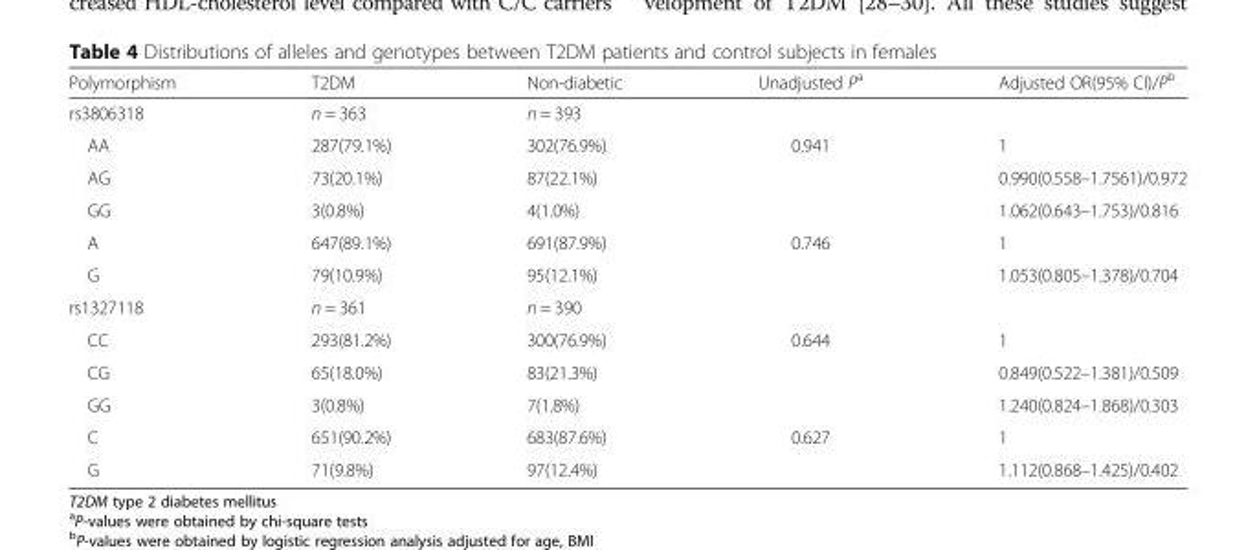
<table><thead><tr><td>Polymorphism</td><td>T2DM</td><td>Non-diabetic</td><td>Unadjusted P<sup>a</sup></td><td>Adjusted OR(95% CI)/P<sup>b</sup></td></tr></thead><tbody><tr><td>rs3806318</td><td>n = 363</td><td>n = 393</td><td></td><td></td></tr><tr><td>AA</td><td>287(79.1%)</td><td>302(76.9%)</td><td>0.941</td><td>1</td></tr><tr><td>AG</td><td>73(20.1%)</td><td>87(22.1%)</td><td></td><td>0.990(0.558–1.7561)/0.972</td></tr><tr><td>GG</td><td>3(0.8%)</td><td>4(1.0%)</td><td></td><td>1.062(0.643–1.753)/0.816</td></tr><tr><td>A</td><td>647(89.1%)</td><td>691(87.9%)</td><td>0.746</td><td>1</td></tr><tr><td>G</td><td>79(10.9%)</td><td>95(12.1%)</td><td></td><td>1.053(0.805–1.378)/0.704</td></tr><tr><td>rs1327118</td><td>n = 361</td><td>n = 390</td><td></td><td></td></tr><tr><td>CC</td><td>293(81.2%)</td><td>300(76.9%)</td><td>0.644</td><td>1</td></tr><tr><td>CG</td><td>65(18.0%)</td><td>83(21.3%)</td><td></td><td>0.849(0.522–1.381)/0.509</td></tr><tr><td>GG</td><td>3(0.8%)</td><td>7(1.8%)</td><td></td><td>1.240(0.824–1.868)/0.303</td></tr><tr><td>C</td><td>651(90.2%)</td><td>683(87.6%)</td><td>0.627</td><td>1</td></tr><tr><td>G</td><td>71(9.8%)</td><td>97(12.4%)</td><td></td><td>1.112(0.868–1.425)/0.402</td></tr></tbody></table>